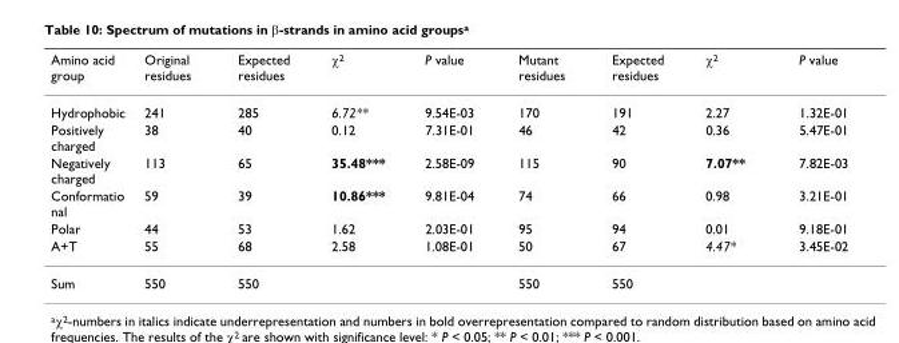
<table><thead><tr><td>Amino acid group</td><td>Original residues</td><td>Expected residues</td><td>χ<sup>2</sup></td><td>P value</td><td>Mutant residues</td><td>Expected residues</td><td>χ<sup>2</sup></td><td>P value</td></tr></thead><tbody><tr><td>Hydrophobic</td><td>241</td><td>285</td><td>6.72**</td><td>9.54E-03</td><td>170</td><td>191</td><td>2.27</td><td>1.32E-01</td></tr><tr><td>Positively charged</td><td>38</td><td>40</td><td>0.12</td><td>7.31E-01</td><td>46</td><td>42</td><td>0.36</td><td>5.47E-01</td></tr><tr><td>Negatively charged</td><td>113</td><td>65</td><td>35.48***</td><td>2.58E-09</td><td>115</td><td>90</td><td>7.07**</td><td>7.82E-03</td></tr><tr><td>Conformatio nal</td><td>59</td><td>39</td><td>10.86***</td><td>9.81E-04</td><td>74</td><td>66</td><td>0.98</td><td>3.21E-01</td></tr><tr><td>Polar</td><td>44</td><td>53</td><td>1.62</td><td>2.03E-01</td><td>95</td><td>94</td><td>0.01</td><td>9.18E-01</td></tr><tr><td>A+T</td><td>55</td><td>68</td><td>2.58</td><td>1.08E-01</td><td>50</td><td>67</td><td>4.47*</td><td>3.45E-02</td></tr><tr><td>Sum</td><td>550</td><td>550</td><td></td><td></td><td>550</td><td>550</td><td></td><td></td></tr></tbody></table>